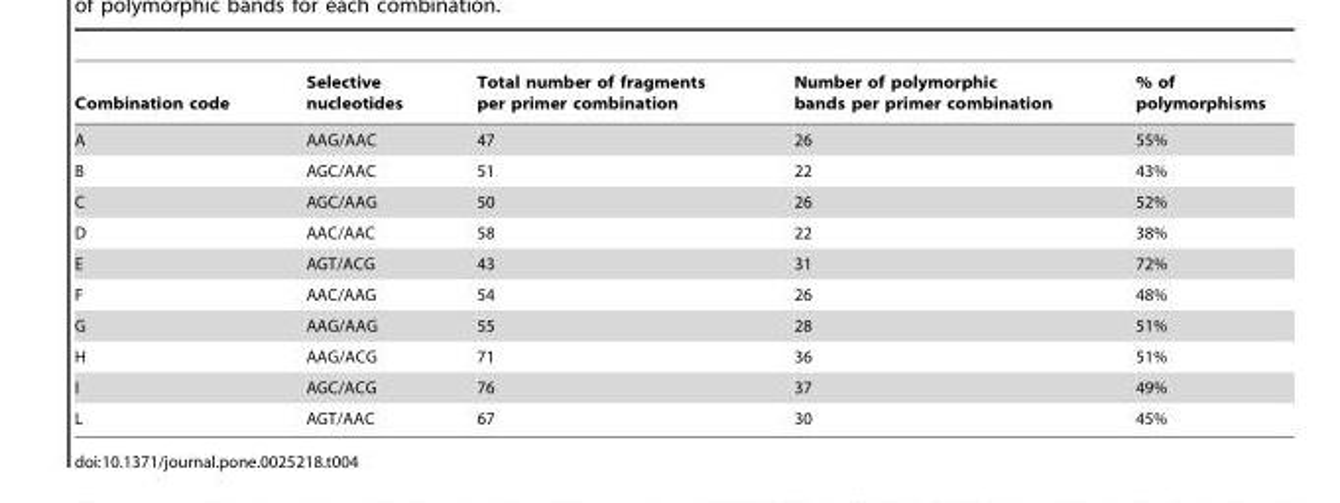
<table><thead><tr><td>Combination code</td><td>Selective nucleotides</td><td>Total number of fragments per primer combination</td><td>Number of polymorphic bands per primer combination</td><td>% of polymorphisms</td></tr></thead><tbody><tr><td>A</td><td>AAG/AAC</td><td>47</td><td>26</td><td>55%</td></tr><tr><td>B</td><td>AGC/AAC</td><td>51</td><td>22</td><td>43%</td></tr><tr><td>C</td><td>AGC/AAG</td><td>50</td><td>26</td><td>52%</td></tr><tr><td>D</td><td>AAC/AAC</td><td>58</td><td>22</td><td>38%</td></tr><tr><td>E</td><td>AGT/ACG</td><td>43</td><td>31</td><td>72%</td></tr><tr><td>F</td><td>AAC/AAG</td><td>54</td><td>26</td><td>48%</td></tr><tr><td>G</td><td>AAG/AAG</td><td>55</td><td>28</td><td>51%</td></tr><tr><td>H</td><td>AAG/ACG</td><td>71</td><td>36</td><td>51%</td></tr><tr><td>I</td><td>AGC/ACG</td><td>76</td><td>37</td><td>49%</td></tr><tr><td>L</td><td>AGT/AAC</td><td>67</td><td>30</td><td>45%</td></tr></tbody></table>